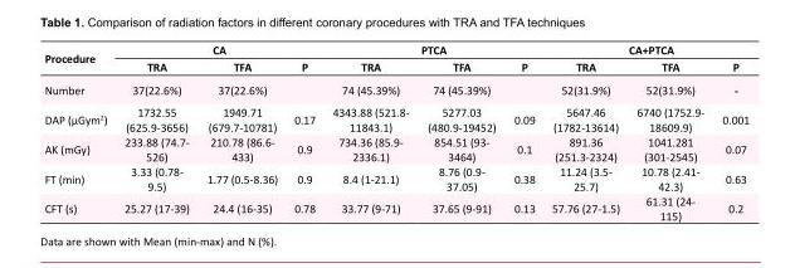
<table><tbody><tr><td rowspan="2">Procedure</td><td colspan="3">CA</td><td colspan="3">PTCA</td><td colspan="3">CA+PTCA</td></tr><tr><td>TRA</td><td>TFA</td><td>P</td><td>TRA</td><td>TFA</td><td>P</td><td>TRA</td><td>TFA</td><td>P</td></tr><tr><td>Number</td><td>37(22.6%)</td><td>37(22.6%)</td><td></td><td>74 (45.39%)</td><td>74 (45.39%)</td><td></td><td>52(31.9%)</td><td>52(31.9%)</td><td>-</td></tr><tr><td>DAP (µGym<sup>2</sup>)</td><td>1732.55 (625.9-3656)</td><td>1949.71 (679.7-10781)</td><td>0.17</td><td>4343.88 (521.8- 11843.1)</td><td>5277.03 (480.9-19452)</td><td>0.09</td><td>5647.46 (1782-13614)</td><td>6740 (1752.9- 18609.9)</td><td>0.001</td></tr><tr><td>AK (mGy)</td><td>233.88 (74.7- 526)</td><td>210.78 (86.6- 433)</td><td>0.9</td><td>734.36 (85.9- 2336.1)</td><td>854.51 (93- 3464)</td><td>0.1</td><td>891.36 (251.3-2324)</td><td>1041.281 (301-2545)</td><td>0.07</td></tr><tr><td>FT (min)</td><td>3.33 (0.78- 9.5)</td><td>1.77 (0.5-8.36)</td><td>0.9</td><td>8.4 (1-21.1)</td><td>8.76 (0.9- 37.05)</td><td>0.38</td><td>11.24 (3.5- 25.7)</td><td>10.78 (2.41- 42.3)</td><td>0.63</td></tr><tr><td>CFT (s)</td><td>25.27 (17-39)</td><td>24.4 (16-35)</td><td>0.78</td><td>33.77 (9-71)</td><td>37.65 (9-91)</td><td>0.13</td><td>57.76 (27-1.5)</td><td>61.31 (24- 115)</td><td>0.2</td></tr></tbody></table>